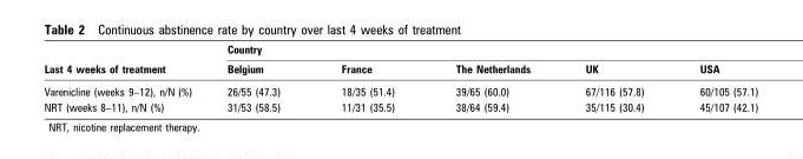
<table><thead><tr><td rowspan="2">Last 4 weeks of treatment</td><td colspan="5">Country</td></tr><tr><td>Belgium</td><td>France</td><td>The Netherlands</td><td>UK</td><td>USA</td></tr></thead><tbody><tr><td>Varenicline (weeks 9–12), n/N (%)</td><td>26/55 (47.3)</td><td>18/35 (51.4)</td><td>39/65 (60.0)</td><td>67/116 (57.8)</td><td>60/105 (57.1)</td></tr><tr><td>NRT (weeks 8–11), n/N (%)</td><td>31/53 (58.5)</td><td>11/31 (35.5)</td><td>38/64 (59.4)</td><td>35/115 (30.4)</td><td>45/107 (42.1)</td></tr></tbody></table>